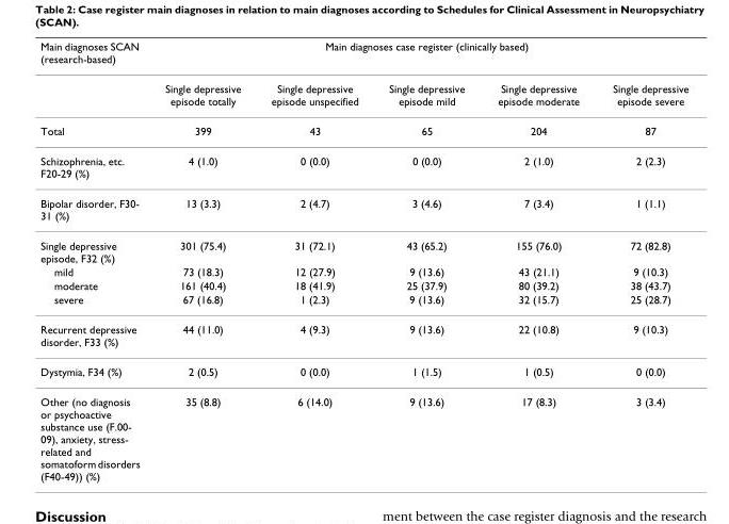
<table><thead><tr><td rowspan="2">Main diagnoses SCAN (research-based)</td><td colspan="5">Main diagnoses case register (clinically based)</td></tr><tr><td>Single depressive episode totally</td><td>Single depressive episode unspecified</td><td>Single depressive episode mild</td><td>Single depressive episode moderate</td><td>Single depressive episode severe</td></tr></thead><tbody><tr><td>Total</td><td>399</td><td>43</td><td>65</td><td>204</td><td>87</td></tr><tr><td>Schizophrenia, etc. F20-29 (%)</td><td>4 (1.0)</td><td>0 (0.0)</td><td>0 (0.0)</td><td>2 (1.0)</td><td>2 (2.3)</td></tr><tr><td>Bipolar disorder, F30- 31 (%)</td><td>13 (3.3)</td><td>2 (4.7)</td><td>3 (4.6)</td><td>7 (3.4)</td><td>1 (1.1)</td></tr><tr><td>Single depressive episode, F32 (%)</td><td>301 (75.4)</td><td>31 (72.1)</td><td>43 (65.2)</td><td>155 (76.0)</td><td>72 (82.8)</td></tr><tr><td>mild</td><td>73 (18.3)</td><td>12 (27.9)</td><td>9 (13.6)</td><td>43 (21.1)</td><td>9 (10.3)</td></tr><tr><td>moderate</td><td>161 (40.4)</td><td>18 (41.9)</td><td>25 (37.9)</td><td>80 (39.2)</td><td>38 (43.7)</td></tr><tr><td>severe</td><td>67 (16.8)</td><td>1 (2.3)</td><td>9 (13.6)</td><td>32 (15.7)</td><td>25 (28.7)</td></tr><tr><td>Recurrent depressive disorder, F33 (%)</td><td>44 (11.0)</td><td>4 (9.3)</td><td>9 (13.6)</td><td>22 (10.8)</td><td>9 (10.3)</td></tr><tr><td>Dystymia, F34 (%)</td><td>2 (0.5)</td><td>0 (0.0)</td><td>1 (1.5)</td><td>1 (0.5)</td><td>0 (0.0)</td></tr><tr><td>Other (no diagnosis or psychoactive substance use (F.00- 09), anxiety, stress- related and somatoform disorders (F40-49)) (%)</td><td>35 (8.8)</td><td>6 (14.0)</td><td>9 (13.6)</td><td>17 (8.3)</td><td>3 (3.4)</td></tr></tbody></table>